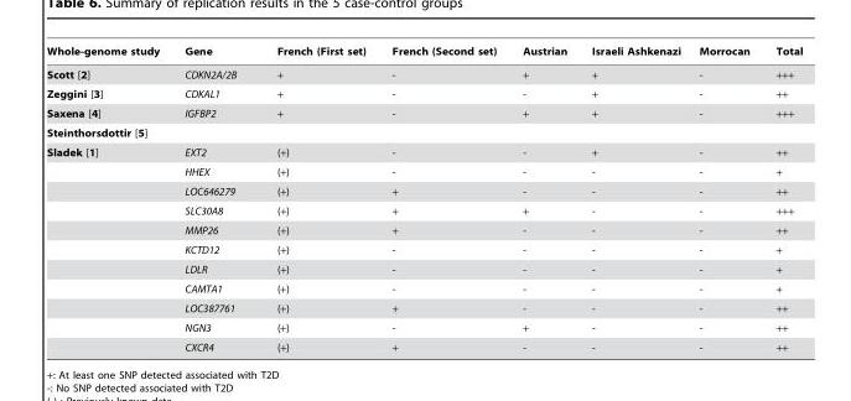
<table><thead><tr><td>Whole-genome study</td><td>Gene</td><td>French (First set)</td><td>French (Second set)</td><td>Austrian</td><td>Israeli Ashkenazi</td><td>Morrocan</td><td>Total</td></tr></thead><tbody><tr><td>Scott [2]</td><td>CDKN2A/2B</td><td>+</td><td>-</td><td>+</td><td>+</td><td>-</td><td>+++</td></tr><tr><td>Zeggini [3]</td><td>CDKAL1</td><td>+</td><td>-</td><td>-</td><td>+</td><td>-</td><td>++</td></tr><tr><td>Saxena [4]</td><td>IGFBP2</td><td>+</td><td>-</td><td>+</td><td>+</td><td>-</td><td>+++</td></tr><tr><td colspan="8">Steinthorsdottir [5]</td></tr><tr><td rowspan="11">Sladek [1]</td><td>EXT2</td><td>(+)</td><td>-</td><td>-</td><td>+</td><td>-</td><td>++</td></tr><tr><td>HHEX</td><td>(+)</td><td>-</td><td>-</td><td>-</td><td>-</td><td>+</td></tr><tr><td>LOC646279</td><td>(+)</td><td>+</td><td>-</td><td>-</td><td>-</td><td>++</td></tr><tr><td>SLC30A8</td><td>(+)</td><td>+</td><td>+</td><td>-</td><td>-</td><td>+++</td></tr><tr><td>MMP26</td><td>(+)</td><td>+</td><td>-</td><td>-</td><td>-</td><td>++</td></tr><tr><td>KCTD12</td><td>(+)</td><td>-</td><td>-</td><td>-</td><td>-</td><td>+</td></tr><tr><td>LDLR</td><td>(+)</td><td>-</td><td>-</td><td>-</td><td>-</td><td>+</td></tr><tr><td>CAMTA1</td><td>(+)</td><td>-</td><td>-</td><td>-</td><td>-</td><td>+</td></tr><tr><td>LOC387761</td><td>(+)</td><td>+</td><td>-</td><td>-</td><td>-</td><td>++</td></tr><tr><td>NGN3</td><td>(+)</td><td>-</td><td>+</td><td>-</td><td>-</td><td>++</td></tr><tr><td>CXCR4</td><td>(+)</td><td>+</td><td>-</td><td>-</td><td>-</td><td>++</td></tr></tbody></table>